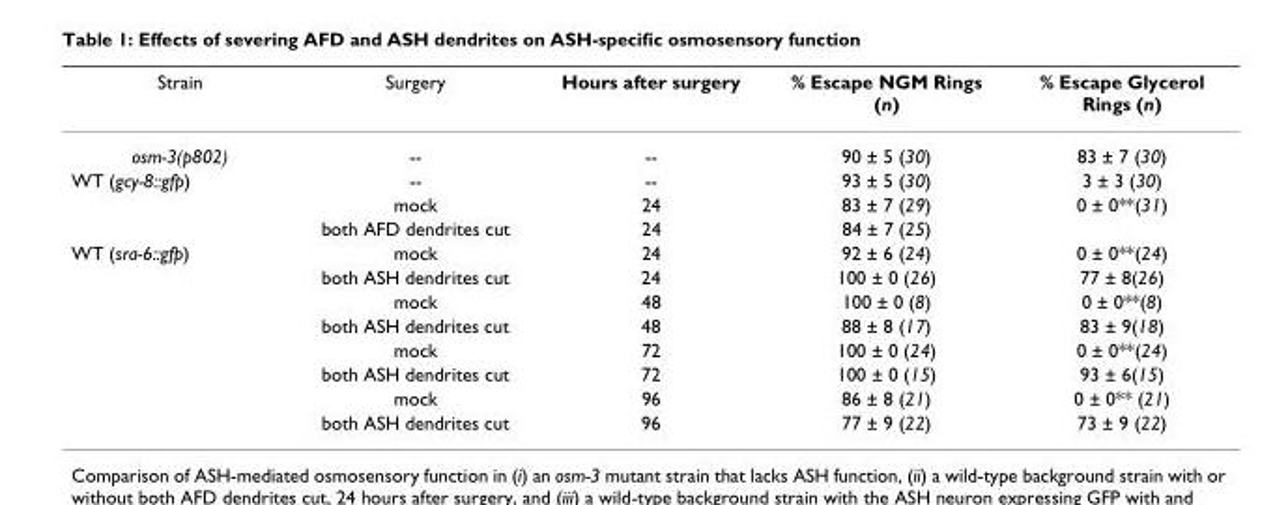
<table><thead><tr><td>Strain</td><td>Surgery</td><td>Hours after surgery</td><td>% Escape NGM Rings (n)</td><td>% Escape Glycerol Rings (n)</td></tr></thead><tbody><tr><td>osm-3(p802)</td><td>--</td><td>--</td><td>90 ± 5 (30)</td><td>83 ± 7 (30)</td></tr><tr><td rowspan="3">WT (gcy-8::gfp)</td><td>--</td><td>--</td><td>93 ± 5 (30)</td><td>3 ± 3 (30)</td></tr><tr><td>mock</td><td>24</td><td>83 ± 7 (29)</td><td>0 ± 0**(31)</td></tr><tr><td>both AFD dendrites cut</td><td>24</td><td>84 ± 7 (25)</td><td></td></tr><tr><td rowspan="8">WT (sra-6::gfp)</td><td>mock</td><td>24</td><td>92 ± 6 (24)</td><td>0 ± 0**(24)</td></tr><tr><td>both ASH dendrites cut</td><td>24</td><td>100 ± 0 (26)</td><td>77 ± 8(26)</td></tr><tr><td>mock</td><td>48</td><td>100 ± 0 (8)</td><td>0 ± 0**(8)</td></tr><tr><td>both ASH dendrites cut</td><td>48</td><td>88 ± 8 (17)</td><td>83 ± 9(18)</td></tr><tr><td>mock</td><td>72</td><td>100 ± 0 (24)</td><td>0 ± 0**(24)</td></tr><tr><td>both ASH dendrites cut</td><td>72</td><td>100 ± 0 (15)</td><td>93 ± 6(15)</td></tr><tr><td>mock</td><td>96</td><td>86 ± 8 (21)</td><td>0 ± 0** (21)</td></tr><tr><td>both ASH dendrites cut</td><td>96</td><td>77 ± 9 (22)</td><td>73 ± 9 (22)</td></tr></tbody></table>